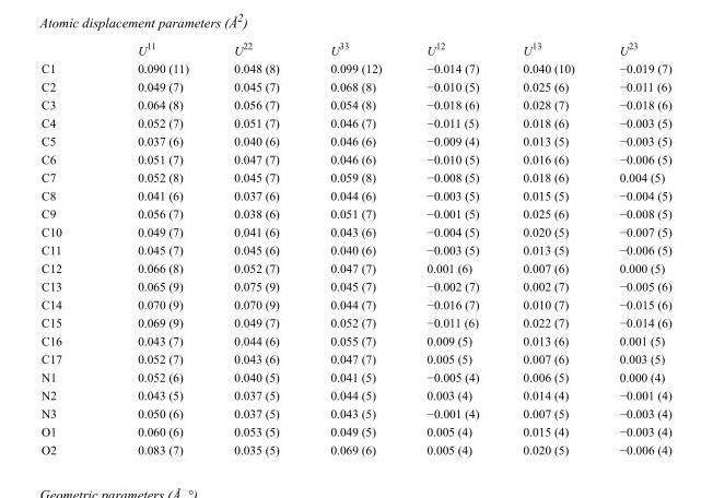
<table><thead><tr><td></td><td>U<sup>11</sup></td><td>U<sup>22</sup></td><td>U<sup>33</sup></td><td>U<sup>12</sup></td><td>U<sup>13</sup></td><td>U<sup>23</sup></td></tr></thead><tbody><tr><td>C1</td><td>0.090 (11)</td><td>0.048 (8)</td><td>0.099 (12)</td><td>−0.014 (7)</td><td>0.040 (10)</td><td>−0.019 (7)</td></tr><tr><td>C2</td><td>0.049 (7)</td><td>0.045 (7)</td><td>0.068 (8)</td><td>−0.010 (5)</td><td>0.025 (6)</td><td>−0.011 (6)</td></tr><tr><td>C3</td><td>0.064 (8)</td><td>0.056 (7)</td><td>0.054 (8)</td><td>−0.018 (6)</td><td>0.028 (7)</td><td>−0.018 (6)</td></tr><tr><td>C4</td><td>0.052 (7)</td><td>0.051 (7)</td><td>0.046 (7)</td><td>−0.011 (5)</td><td>0.018 (6)</td><td>−0.003 (5)</td></tr><tr><td>C5</td><td>0.037 (6)</td><td>0.040 (6)</td><td>0.046 (6)</td><td>−0.009 (4)</td><td>0.013 (5)</td><td>−0.003 (5)</td></tr><tr><td>C6</td><td>0.051 (7)</td><td>0.047 (7)</td><td>0.046 (6)</td><td>−0.010 (5)</td><td>0.016 (6)</td><td>−0.006 (5)</td></tr><tr><td>C7</td><td>0.052 (8)</td><td>0.045 (7)</td><td>0.059 (8)</td><td>−0.008 (5)</td><td>0.018 (6)</td><td>0.004 (5)</td></tr><tr><td>C8</td><td>0.041 (6)</td><td>0.037 (6)</td><td>0.044 (6)</td><td>−0.003 (5)</td><td>0.015 (5)</td><td>−0.004 (5)</td></tr><tr><td>C9</td><td>0.056 (7)</td><td>0.038 (6)</td><td>0.051 (7)</td><td>−0.001 (5)</td><td>0.025 (6)</td><td>−0.008 (5)</td></tr><tr><td>C10</td><td>0.049 (7)</td><td>0.041 (6)</td><td>0.043 (6)</td><td>−0.004 (5)</td><td>0.020 (5)</td><td>−0.007 (5)</td></tr><tr><td>C11</td><td>0.045 (7)</td><td>0.045 (6)</td><td>0.040 (6)</td><td>−0.003 (5)</td><td>0.013 (5)</td><td>−0.006 (5)</td></tr><tr><td>C12</td><td>0.066 (8)</td><td>0.052 (7)</td><td>0.047 (7)</td><td>0.001 (6)</td><td>0.007 (6)</td><td>0.000 (5)</td></tr><tr><td>C13</td><td>0.065 (9)</td><td>0.075 (9)</td><td>0.045 (7)</td><td>−0.002 (7)</td><td>0.002 (7)</td><td>−0.005 (6)</td></tr><tr><td>C14</td><td>0.070 (9)</td><td>0.070 (9)</td><td>0.044 (7)</td><td>−0.016 (7)</td><td>0.010 (7)</td><td>−0.015 (6)</td></tr><tr><td>C15</td><td>0.069 (9)</td><td>0.049 (7)</td><td>0.052 (7)</td><td>−0.011 (6)</td><td>0.022 (7)</td><td>−0.014 (6)</td></tr><tr><td>C16</td><td>0.043 (7)</td><td>0.044 (6)</td><td>0.055 (7)</td><td>0.009 (5)</td><td>0.013 (6)</td><td>0.001 (5)</td></tr><tr><td>C17</td><td>0.052 (7)</td><td>0.043 (6)</td><td>0.047 (7)</td><td>0.005 (5)</td><td>0.007 (6)</td><td>0.003 (5)</td></tr><tr><td>N1</td><td>0.052 (6)</td><td>0.040 (5)</td><td>0.041 (5)</td><td>−0.005 (4)</td><td>0.006 (5)</td><td>0.000 (4)</td></tr><tr><td>N2</td><td>0.043 (5)</td><td>0.037 (5)</td><td>0.044 (5)</td><td>0.003 (4)</td><td>0.014 (4)</td><td>−0.001 (4)</td></tr><tr><td>N3</td><td>0.050 (6)</td><td>0.037 (5)</td><td>0.043 (5)</td><td>−0.001 (4)</td><td>0.007 (5)</td><td>−0.003 (4)</td></tr><tr><td>O1</td><td>0.060 (6)</td><td>0.053 (5)</td><td>0.049 (5)</td><td>0.005 (4)</td><td>0.015 (4)</td><td>−0.003 (4)</td></tr><tr><td>O2</td><td>0.083 (7)</td><td>0.035 (5)</td><td>0.069 (6)</td><td>0.005 (4)</td><td>0.020 (5)</td><td>−0.006 (4)</td></tr></tbody></table>